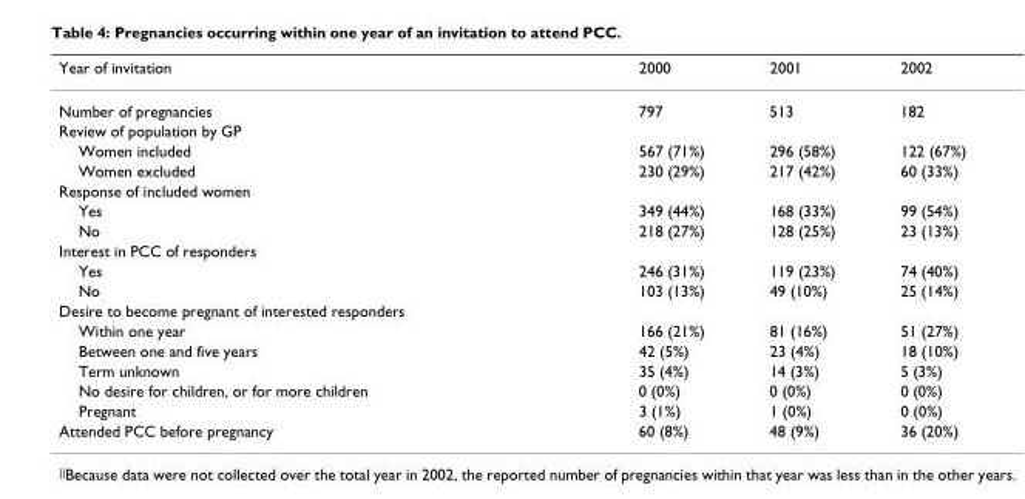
<table><thead><tr><td>Year of invitation</td><td>2000</td><td>2001</td><td>2002</td></tr></thead><tbody><tr><td>Number of pregnancies</td><td>797</td><td>513</td><td>182</td></tr><tr><td colspan="4">Review of population by GP</td></tr><tr><td>Women included</td><td>567 (71%)</td><td>296 (58%)</td><td>122 (67%)</td></tr><tr><td>Women excluded</td><td>230 (29%)</td><td>217 (42%)</td><td>60 (33%)</td></tr><tr><td colspan="4">Response of included women</td></tr><tr><td>Yes</td><td>349 (44%)</td><td>168 (33%)</td><td>99 (54%)</td></tr><tr><td>No</td><td>218 (27%)</td><td>128 (25%)</td><td>23 (13%)</td></tr><tr><td colspan="4">Interest in PCC of responders</td></tr><tr><td>Yes</td><td>246 (31%)</td><td>119 (23%)</td><td>74 (40%)</td></tr><tr><td>No</td><td>103 (13%)</td><td>49 (10%)</td><td>25 (14%)</td></tr><tr><td colspan="4">Desire to become pregnant of interested responders</td></tr><tr><td>Within one year</td><td>166 (21%)</td><td>81 (16%)</td><td>51 (27%)</td></tr><tr><td>Between one and five years</td><td>42 (5%)</td><td>23 (4%)</td><td>18 (10%)</td></tr><tr><td>Term unknown</td><td>35 (4%)</td><td>14 (3%)</td><td>5 (3%)</td></tr><tr><td>No desire for children, or for more children</td><td>0 (0%)</td><td>0 (0%)</td><td>0 (0%)</td></tr><tr><td>Pregnant</td><td>3 (1%)</td><td>1 (0%)</td><td>0 (0%)</td></tr><tr><td>Attended PCC before pregnancy</td><td>60 (8%)</td><td>48 (9%)</td><td>36 (20%)</td></tr></tbody></table>